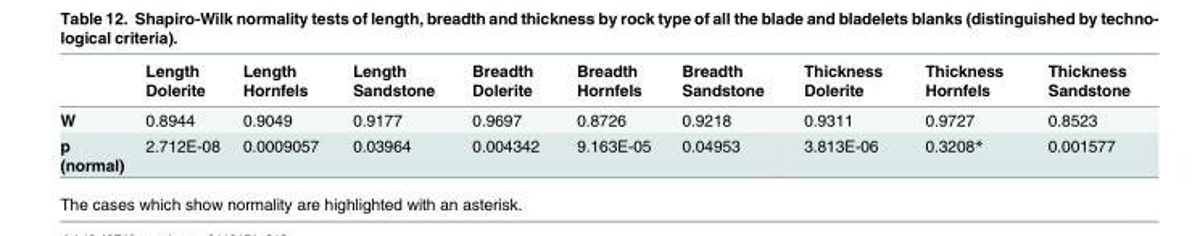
<table><thead><tr><td></td><td>Length Dolerite</td><td>Length Hornfels</td><td>Length Sandstone</td><td>Breadth Dolerite</td><td>Breadth Hornfels</td><td>Breadth Sandstone</td><td>Thickness Dolerite</td><td>Thickness Hornfels</td><td>Thickness Sandstone</td></tr></thead><tbody><tr><td>W</td><td>0.8944</td><td>0.9049</td><td>0.9177</td><td>0.9697</td><td>0.8726</td><td>0.9218</td><td>0.9311</td><td>0.9727</td><td>0.8523</td></tr><tr><td>p (normal)</td><td>2.712E-08</td><td>0.0009057</td><td>0.03964</td><td>0.004342</td><td>9.163E-05</td><td>0.04953</td><td>3.813E-06</td><td>0.3208*</td><td>0.001577</td></tr></tbody></table>